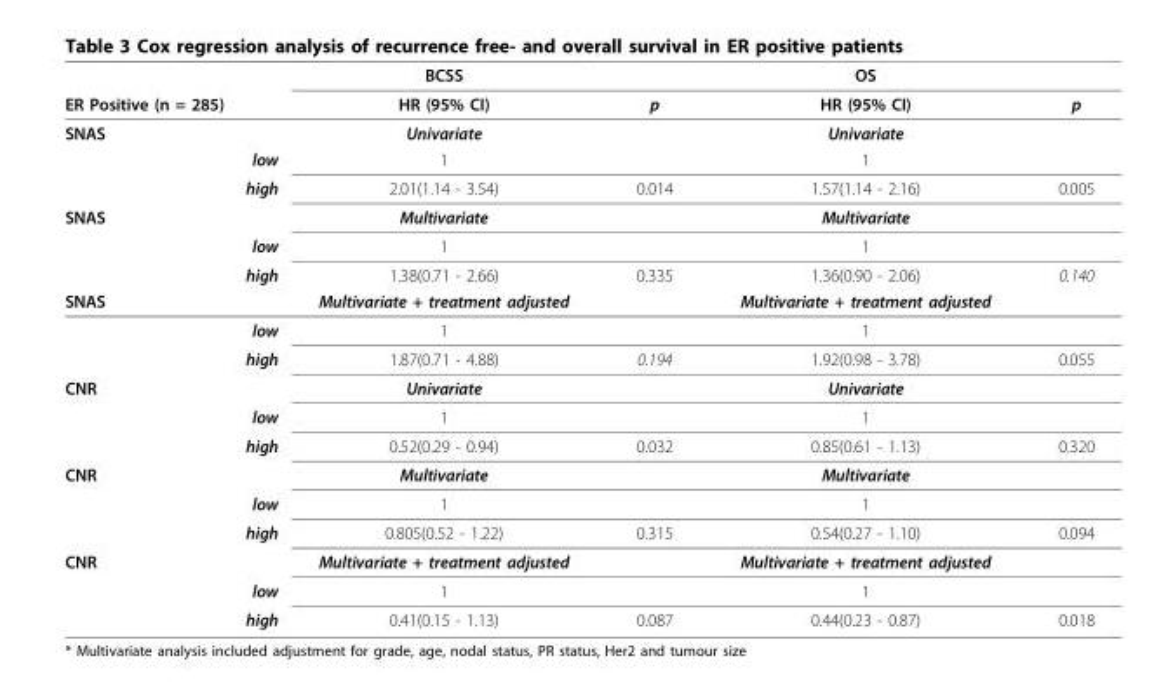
<table><thead><tr><td rowspan="2">ER Positive (n = 285)</td><td rowspan="2">BCSS HR (95% CI)</td><td rowspan="2">p</td><td rowspan="2">OS HR (95% CI)</td><td rowspan="2">p</td></tr><tr></tr></thead><tbody><tr><td>SNAS</td><td>Univariate</td><td></td><td>Univariate</td><td></td></tr><tr><td>low</td><td>1</td><td></td><td>1</td><td></td></tr><tr><td>high</td><td>2.01(1.14 - 3.54)</td><td>0.014</td><td>1.57(1.14 - 2.16)</td><td>0.005</td></tr><tr><td>SNAS</td><td>Multivariate</td><td></td><td>Multivariate</td><td></td></tr><tr><td>low</td><td>1</td><td></td><td>1</td><td></td></tr><tr><td>high</td><td>1.38(0.71 - 2.66)</td><td>0.335</td><td>1.36(0.90 - 2.06)</td><td>0.140</td></tr><tr><td>SNAS</td><td>Multivariate + treatment adjusted</td><td></td><td>Multivariate + treatment adjusted</td><td></td></tr><tr><td>low</td><td>1</td><td></td><td>1</td><td></td></tr><tr><td>high</td><td>1.87(0.71 - 4.88)</td><td>0.194</td><td>1.92(0.98 - 3.78)</td><td>0.055</td></tr><tr><td>CNR</td><td>Univariate</td><td></td><td>Univariate</td><td></td></tr><tr><td>low</td><td>1</td><td></td><td>1</td><td></td></tr><tr><td>high</td><td>0.52(0.29 - 0.94)</td><td>0.032</td><td>0.85(0.61 - 1.13)</td><td>0.320</td></tr><tr><td>CNR</td><td>Multivariate</td><td></td><td>Multivariate</td><td></td></tr><tr><td>low</td><td>1</td><td></td><td>1</td><td></td></tr><tr><td>high</td><td>0.805(0.52 - 1.22)</td><td>0.315</td><td>0.54(0.27 - 1.10)</td><td>0.094</td></tr><tr><td>CNR</td><td>Multivariate + treatment adjusted</td><td></td><td>Multivariate + treatment adjusted</td><td></td></tr><tr><td>low</td><td>1</td><td></td><td>1</td><td></td></tr><tr><td>high</td><td>0.41(0.15 - 1.13)</td><td>0.087</td><td>0.44(0.23 - 0.87)</td><td>0.018</td></tr></tbody></table>